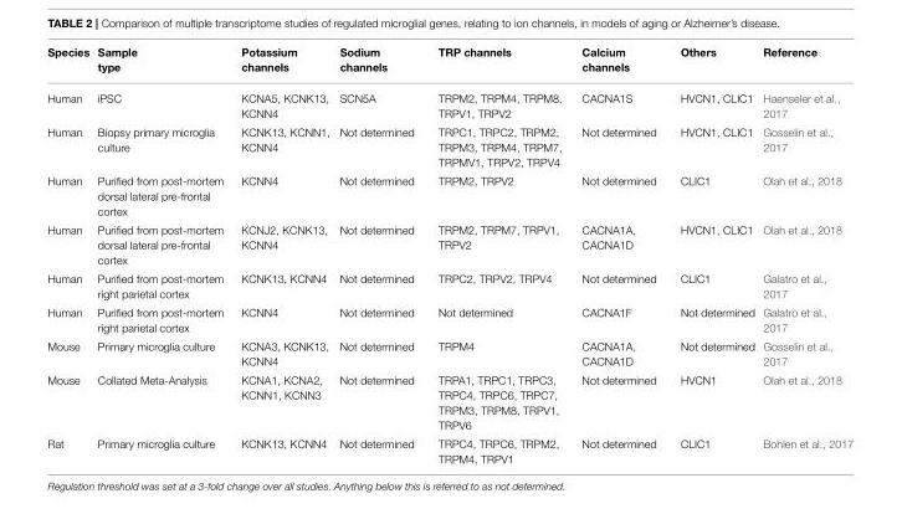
<table><thead><tr><td>Species</td><td>Sample type</td><td>Potassium channels</td><td>Sodium channels</td><td>TRP channels</td><td>Calcium channels</td><td>Others</td><td>Reference</td></tr></thead><tbody><tr><td>Human</td><td>iPSC</td><td>KCNA5, KCNK13, KCNN4</td><td>SCN5A</td><td>TRPM2, TRPM4, TRPM8, TRPV1, TRPV2</td><td>CACNA1S</td><td>HVCN1, CLIC1</td><td>Haenseler et al., 2017</td></tr><tr><td>Human</td><td>Biopsy primary microglia culture</td><td>KCNK13, KCNN1, KCNN4</td><td>Not determined</td><td>TRPC1, TRPC2, TRPM2, TRPM3, TRPM4, TRPM7, TRPMV1, TRPV2, TRPV4</td><td>Not determined</td><td>HVCN1, CLIC1</td><td>Gosselin et al., 2017</td></tr><tr><td>Human</td><td>Purified from post-mortem dorsal lateral pre-frontal cortex</td><td>KCNN4</td><td>Not determined</td><td>TRPM2, TRPV2</td><td>Not determined</td><td>CLIC1</td><td>Olah et al., 2018</td></tr><tr><td>Human</td><td>Purified from post-mortem dorsal lateral pre-frontal cortex</td><td>KCNJ2, KCNK13, KCNN4</td><td>Not determined</td><td>TRPM2, TRPM7, TRPV1, TRPV2</td><td>CACNA1A, CACNA1D</td><td>HVCN1, CLIC1</td><td>Olah et al., 2018</td></tr><tr><td>Human</td><td>Purified from post-mortem right parietal cortex</td><td>KCNK13, KCNN4</td><td>Not determined</td><td>TRPC2, TRPV2, TRPV4</td><td>Not determined</td><td>CLIC1</td><td>Galatro et al., 2017</td></tr><tr><td>Human</td><td>Purified from post-mortem right parietal cortex</td><td>KCNN4</td><td>Not determined</td><td>Not determined</td><td>CACNA1F</td><td>Not determined</td><td>Galatro et al., 2017</td></tr><tr><td>Mouse</td><td>Primary microglia culture</td><td>KCNA3, KCNK13, KCNN4</td><td>Not determined</td><td>TRPM4</td><td>CACNA1A, CACNA1D</td><td>Not determined</td><td>Gosselin et al., 2017</td></tr><tr><td>Mouse</td><td>Collated Meta-Analysis</td><td>KCNA1, KCNA2, KCNN1, KCNN3</td><td>Not determined</td><td>TRPA1, TRPC1, TRPC3, TRPC4, TRPC6, TRPC7, TRPM3, TRPM8, TRPV1, TRPV6</td><td>Not determined</td><td>HVCN1</td><td>Olah et al., 2018</td></tr><tr><td>Rat</td><td>Primary microglia culture</td><td>KCNK13, KCNN4</td><td>Not determined</td><td>TRPC4, TRPC6, TRPM2, TRPM4, TRPV1</td><td>Not determined</td><td>CLIC1</td><td>Bohlen et al., 2017</td></tr></tbody></table>